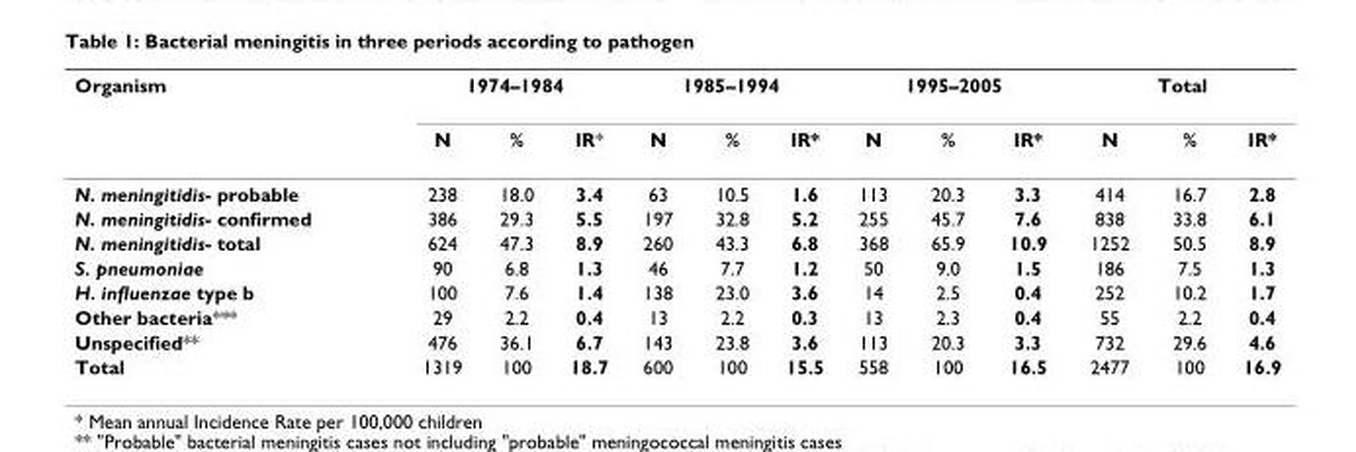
<table><thead><tr><td rowspan="2">Organism</td><td colspan="3">1974–1984</td><td colspan="3">1985–1994</td><td colspan="3">1995–2005</td><td colspan="3">Total</td></tr><tr><td>N</td><td>%</td><td>IR*</td><td>N</td><td>%</td><td>IR*</td><td>N</td><td>%</td><td>IR*</td><td>N</td><td>%</td><td>IR*</td></tr></thead><tbody><tr><td>N. meningitidis- probable</td><td>238</td><td>18.0</td><td>3.4</td><td>63</td><td>10.5</td><td>1.6</td><td>113</td><td>20.3</td><td>3.3</td><td>414</td><td>16.7</td><td>2.8</td></tr><tr><td>N. meningitidis- confirmed</td><td>386</td><td>29.3</td><td>5.5</td><td>197</td><td>32.8</td><td>5.2</td><td>255</td><td>45.7</td><td>7.6</td><td>838</td><td>33.8</td><td>6.1</td></tr><tr><td>N. meningitidis- total</td><td>624</td><td>47.3</td><td>8.9</td><td>260</td><td>43.3</td><td>6.8</td><td>368</td><td>65.9</td><td>10.9</td><td>1252</td><td>50.5</td><td>8.9</td></tr><tr><td>S. pneumoniae</td><td>90</td><td>6.8</td><td>1.3</td><td>46</td><td>7.7</td><td>1.2</td><td>50</td><td>9.0</td><td>1.5</td><td>186</td><td>7.5</td><td>1.3</td></tr><tr><td>H. influenzae type b</td><td>100</td><td>7.6</td><td>1.4</td><td>138</td><td>23.0</td><td>3.6</td><td>14</td><td>2.5</td><td>0.4</td><td>252</td><td>10.2</td><td>1.7</td></tr><tr><td>Other bacteria***</td><td>29</td><td>2.2</td><td>0.4</td><td>13</td><td>2.2</td><td>0.3</td><td>13</td><td>2.3</td><td>0.4</td><td>55</td><td>2.2</td><td>0.4</td></tr><tr><td>Unspecified**</td><td>476</td><td>36.1</td><td>6.7</td><td>143</td><td>23.8</td><td>3.6</td><td>113</td><td>20.3</td><td>3.3</td><td>732</td><td>29.6</td><td>4.6</td></tr><tr><td>Total</td><td>1319</td><td>100</td><td>18.7</td><td>600</td><td>100</td><td>15.5</td><td>558</td><td>100</td><td>16.5</td><td>2477</td><td>100</td><td>16.9</td></tr></tbody></table>